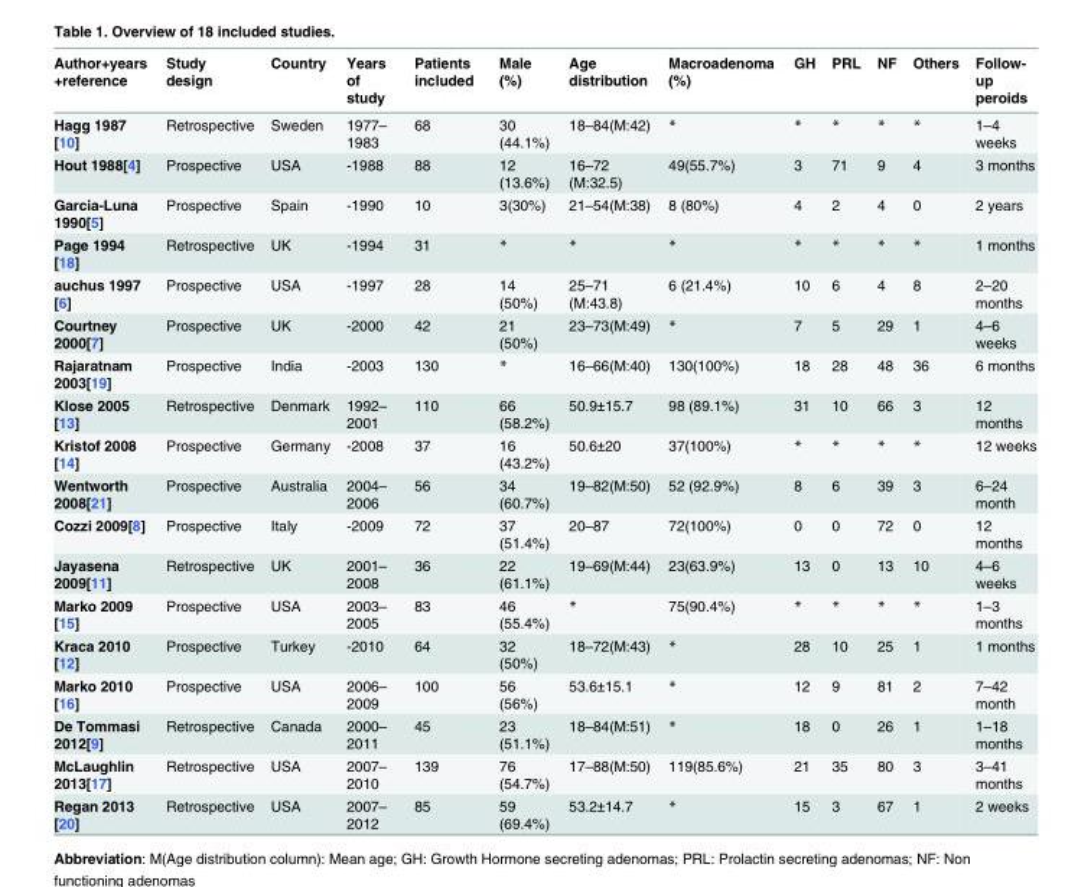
<table><thead><tr><td>Author+years +reference</td><td>Study design</td><td>Country</td><td>Years of study</td><td>Patients included</td><td>Male (%)</td><td>Age distribution</td><td>Macroadenoma (%)</td><td>GH</td><td>PRL</td><td>NF</td><td>Others</td><td>Follow- up peroids</td></tr></thead><tbody><tr><td>Hagg 1987 [10]</td><td>Retrospective</td><td>Sweden</td><td>1977– 1983</td><td>68</td><td>30 (44.1%)</td><td>18–84(M:42)</td><td>*</td><td>*</td><td>*</td><td>*</td><td>*</td><td>1–4 weeks</td></tr><tr><td>Hout 1988[4]</td><td>Prospective</td><td>USA</td><td>-1988</td><td>88</td><td>12 (13.6%)</td><td>16–72 (M:32.5)</td><td>49(55.7%)</td><td>3</td><td>71</td><td>9</td><td>4</td><td>3 months</td></tr><tr><td>Garcia-Luna 1990[5]</td><td>Prospective</td><td>Spain</td><td>-1990</td><td>10</td><td>3(30%)</td><td>21–54(M:38)</td><td>8 (80%)</td><td>4</td><td>2</td><td>4</td><td>0</td><td>2 years</td></tr><tr><td>Page 1994 [18]</td><td>Retrospective</td><td>UK</td><td>-1994</td><td>31</td><td>*</td><td>*</td><td>*</td><td>*</td><td>*</td><td>*</td><td>*</td><td>1 months</td></tr><tr><td>auchus 1997 [6]</td><td>Prospective</td><td>USA</td><td>-1997</td><td>28</td><td>14 (50%)</td><td>25–71 (M:43.8)</td><td>6 (21.4%)</td><td>10</td><td>6</td><td>4</td><td>8</td><td>2–20 months</td></tr><tr><td>Courtney 2000[7]</td><td>Prospective</td><td>UK</td><td>-2000</td><td>42</td><td>21 (50%)</td><td>23–73(M:49)</td><td>*</td><td>7</td><td>5</td><td>29</td><td>1</td><td>4–6 weeks</td></tr><tr><td>Rajaratnam 2003[19]</td><td>Prospective</td><td>India</td><td>-2003</td><td>130</td><td>*</td><td>16–66(M:40)</td><td>130(100%)</td><td>18</td><td>28</td><td>48</td><td>36</td><td>6 months</td></tr><tr><td>Klose 2005 [13]</td><td>Retrospective</td><td>Denmark</td><td>1992– 2001</td><td>110</td><td>66 (58.2%)</td><td>50.9±15.7</td><td>98 (89.1%)</td><td>31</td><td>10</td><td>66</td><td>3</td><td>12 months</td></tr><tr><td>Kristof 2008 [14]</td><td>Prospective</td><td>Germany</td><td>-2008</td><td>37</td><td>16 (43.2%)</td><td>50.6±20</td><td>37(100%)</td><td>*</td><td>*</td><td>*</td><td>*</td><td>12 weeks</td></tr><tr><td>Wentworth 2008[21]</td><td>Prospective</td><td>Australia</td><td>2004– 2006</td><td>56</td><td>34 (60.7%)</td><td>19–82(M:50)</td><td>52 (92.9%)</td><td>8</td><td>6</td><td>39</td><td>3</td><td>6–24 month</td></tr><tr><td>Cozzi 2009[8]</td><td>Prospective</td><td>Italy</td><td>-2009</td><td>72</td><td>37 (51.4%)</td><td>20–87</td><td>72(100%)</td><td>0</td><td>0</td><td>72</td><td>0</td><td>12 months</td></tr><tr><td>Jayasena 2009[11]</td><td>Retrospective</td><td>UK</td><td>2001– 2008</td><td>36</td><td>22 (61.1%)</td><td>19–69(M:44)</td><td>23(63.9%)</td><td>13</td><td>0</td><td>13</td><td>10</td><td>4–6 weeks</td></tr><tr><td>Marko 2009 [15]</td><td>Prospective</td><td>USA</td><td>2003– 2005</td><td>83</td><td>46 (55.4%)</td><td>*</td><td>75(90.4%)</td><td>*</td><td>*</td><td>*</td><td>*</td><td>1–3 months</td></tr><tr><td>Kraca 2010 [12]</td><td>Prospective</td><td>Turkey</td><td>-2010</td><td>64</td><td>32 (50%)</td><td>18–72(M:43)</td><td>*</td><td>28</td><td>10</td><td>25</td><td>1</td><td>1 months</td></tr><tr><td>Marko 2010 [16]</td><td>Prospective</td><td>USA</td><td>2006– 2009</td><td>100</td><td>56 (56%)</td><td>53.6±15.1</td><td>*</td><td>12</td><td>9</td><td>81</td><td>2</td><td>7–42 month</td></tr><tr><td>De Tommasi 2012[9]</td><td>Retrospective</td><td>Canada</td><td>2000– 2011</td><td>45</td><td>23 (51.1%)</td><td>18–84(M:51)</td><td>*</td><td>18</td><td>0</td><td>26</td><td>1</td><td>1–18 months</td></tr><tr><td>McLaughlin 2013[17]</td><td>Retrospective</td><td>USA</td><td>2007– 2010</td><td>139</td><td>76 (54.7%)</td><td>17–88(M:50)</td><td>119(85.6%)</td><td>21</td><td>35</td><td>80</td><td>3</td><td>3–41 months</td></tr><tr><td>Regan 2013 [20]</td><td>Retrospective</td><td>USA</td><td>2007– 2012</td><td>85</td><td>59 (69.4%)</td><td>53.2±14.7</td><td>*</td><td>15</td><td>3</td><td>67</td><td>1</td><td>2 weeks</td></tr></tbody></table>